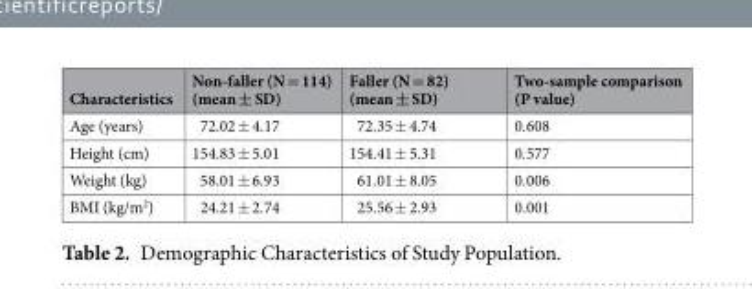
<table><thead><tr><td>Characteristics</td><td>Non-faller (N = 114) (mean ± SD)</td><td>Faller (N = 82) (mean ± SD)</td><td>Two-sample comparison (P value)</td></tr></thead><tbody><tr><td>Age (years)</td><td>72.02 ± 4.17</td><td>72.35 ± 4.74</td><td>0.608</td></tr><tr><td>Height (cm)</td><td>154.83 ± 5.01</td><td>154.41 ± 5.31</td><td>0.577</td></tr><tr><td>Weight (kg)</td><td>58.01 ± 6.93</td><td>61.01 ± 8.05</td><td>0.006</td></tr><tr><td>BMI (kg/m<sup>2</sup>)</td><td>24.21 ± 2.74</td><td>25.56 ± 2.93</td><td>0.001</td></tr></tbody></table>